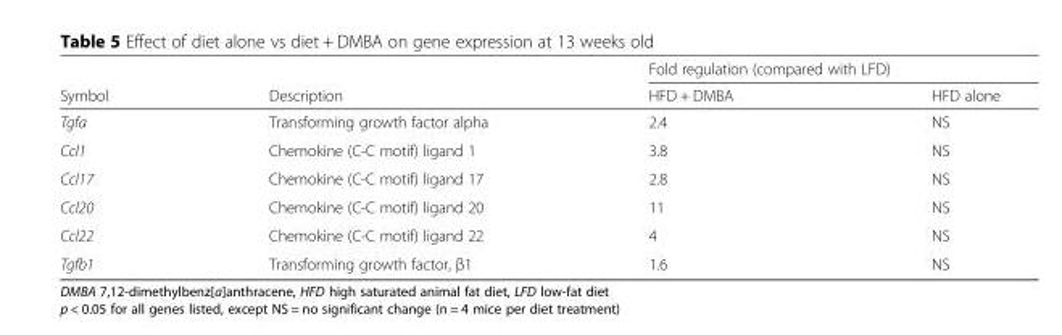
<table><thead><tr><td rowspan="2">Symbol</td><td rowspan="2">Description</td><td colspan="2">Fold regulation (compared with LFD)</td></tr><tr><td>HFD + DMBA</td><td>HFD alone</td></tr></thead><tbody><tr><td>Tgfa</td><td>Transforming growth factor alpha</td><td>2.4</td><td>NS</td></tr><tr><td>Ccl1</td><td>Chemokine (C-C motif) ligand 1</td><td>3.8</td><td>NS</td></tr><tr><td>Ccl17</td><td>Chemokine (C-C motif) ligand 17</td><td>2.8</td><td>NS</td></tr><tr><td>Ccl20</td><td>Chemokine (C-C motif) ligand 20</td><td>11</td><td>NS</td></tr><tr><td>Ccl22</td><td>Chemokine (C-C motif) ligand 22</td><td>4</td><td>NS</td></tr><tr><td>Tgfb1</td><td>Transforming growth factor, β1</td><td>1.6</td><td>NS</td></tr></tbody></table>